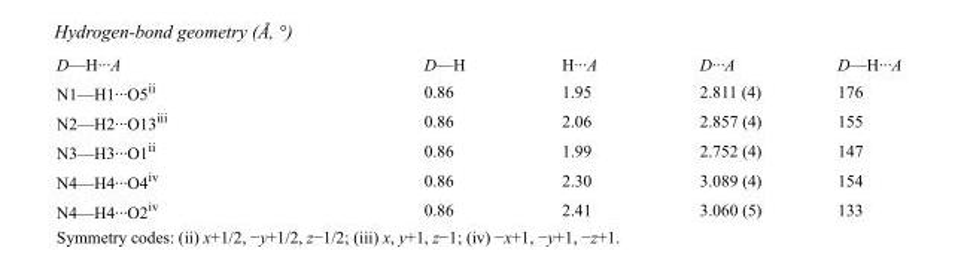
<table><tbody><tr><td>D—H···A</td><td>D—H</td><td>H···A</td><td>D···A</td><td>D—H···A</td></tr><tr><td>N1—H1···O5<sup>ii</sup></td><td>0.86</td><td>1.95</td><td>2.811 (4)</td><td>176</td></tr><tr><td>N2—H2···O13<sup>iii</sup></td><td>0.86</td><td>2.06</td><td>2.857 (4)</td><td>155</td></tr><tr><td>N3—H3···O1<sup>ii</sup></td><td>0.86</td><td>1.99</td><td>2.752 (4)</td><td>147</td></tr><tr><td>N4—H4···O4<sup>iv</sup></td><td>0.86</td><td>2.30</td><td>3.089 (4)</td><td>154</td></tr><tr><td>N4—H4···O2<sup>iv</sup></td><td>0.86</td><td>2.41</td><td>3.060 (5)</td><td>133</td></tr></tbody></table>